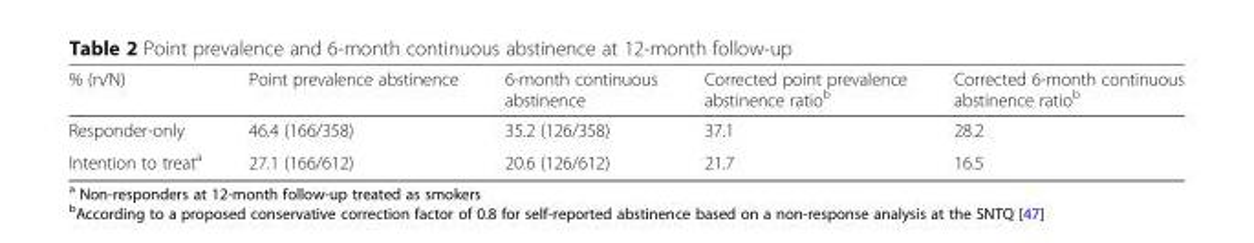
<table><thead><tr><td>% (n/N)</td><td>Point prevalence abstinence</td><td>6-month continuous abstinence</td><td>Corrected point prevalence abstinence ratio<sup>b</sup></td><td>Corrected 6-month continuous abstinence ratio<sup>b</sup></td></tr></thead><tbody><tr><td>Responder-only</td><td>46.4 (166/358)</td><td>35.2 (126/358)</td><td>37.1</td><td>28.2</td></tr><tr><td>Intention to treat<sup>a</sup></td><td>27.1 (166/612)</td><td>20.6 (126/612)</td><td>21.7</td><td>16.5</td></tr></tbody></table>